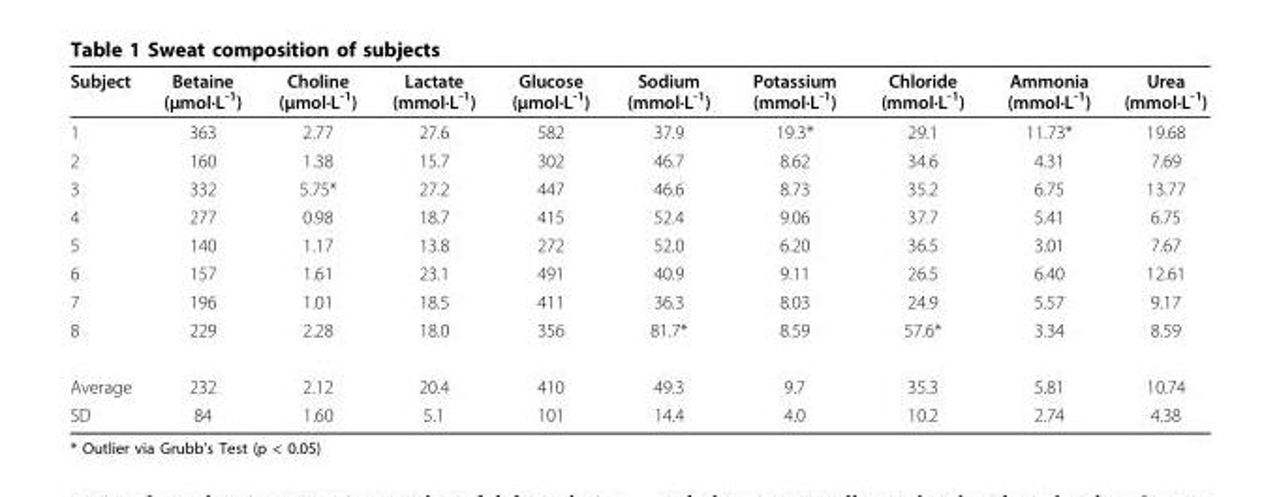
<table><thead><tr><td>Subject</td><td>Betaine (μmol·L<sup>-1</sup>)</td><td>Choline (μmol·L<sup>-1</sup>)</td><td>Lactate (mmol·L<sup>-1</sup>)</td><td>Glucose (μmol·L<sup>-1</sup>)</td><td>Sodium (mmol·L<sup>-1</sup>)</td><td>Potassium (mmol·L<sup>-1</sup>)</td><td>Chloride (mmol·L<sup>-1</sup>)</td><td>Ammonia (mmol·L<sup>-1</sup>)</td><td>Urea (mmol·L<sup>-1</sup>)</td></tr></thead><tbody><tr><td>1</td><td>363</td><td>2.77</td><td>27.6</td><td>582</td><td>37.9</td><td>19.3*</td><td>29.1</td><td>11.73*</td><td>19.68</td></tr><tr><td>2</td><td>160</td><td>1.38</td><td>15.7</td><td>302</td><td>46.7</td><td>8.62</td><td>34.6</td><td>4.31</td><td>7.69</td></tr><tr><td>3</td><td>332</td><td>5.75*</td><td>27.2</td><td>447</td><td>46.6</td><td>8.73</td><td>35.2</td><td>6.75</td><td>13.77</td></tr><tr><td>4</td><td>277</td><td>0.98</td><td>18.7</td><td>415</td><td>52.4</td><td>9.06</td><td>37.7</td><td>5.41</td><td>6.75</td></tr><tr><td>5</td><td>140</td><td>1.17</td><td>13.8</td><td>272</td><td>52.0</td><td>6.20</td><td>36.5</td><td>3.01</td><td>7.67</td></tr><tr><td>6</td><td>157</td><td>1.61</td><td>23.1</td><td>491</td><td>40.9</td><td>9.11</td><td>26.5</td><td>6.40</td><td>12.61</td></tr><tr><td>7</td><td>196</td><td>1.01</td><td>18.5</td><td>411</td><td>36.3</td><td>8.03</td><td>24.9</td><td>5.57</td><td>9.17</td></tr><tr><td>8</td><td>229</td><td>2.28</td><td>18.0</td><td>356</td><td>81.7*</td><td>8.59</td><td>57.6*</td><td>3.34</td><td>8.59</td></tr><tr><td>Average</td><td>232</td><td>2.12</td><td>20.4</td><td>410</td><td>49.3</td><td>9.7</td><td>35.3</td><td>5.81</td><td>10.74</td></tr><tr><td>SD</td><td>84</td><td>1.60</td><td>5.1</td><td>101</td><td>14.4</td><td>4.0</td><td>10.2</td><td>2.74</td><td>4.38</td></tr></tbody></table>